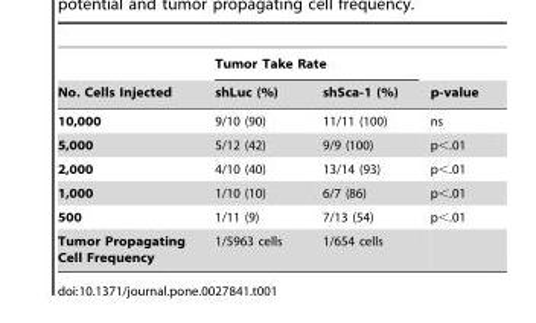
<table><thead><tr><td rowspan="2">No. Cells Injected</td><td colspan="2">Tumor Take Rate</td><td rowspan="2">p-value</td></tr><tr><td>shLuc (%)</td><td>shSca-1 (%)</td></tr></thead><tbody><tr><td>10,000</td><td>9/10 (90)</td><td>11/11 (100)</td><td>ns</td></tr><tr><td>5,000</td><td>5/12 (42)</td><td>9/9 (100)</td><td>p&lt;.01</td></tr><tr><td>2,000</td><td>4/10 (40)</td><td>13/14 (93)</td><td>p&lt;.01</td></tr><tr><td>1,000</td><td>1/10 (10)</td><td>6/7 (86)</td><td>p&lt;.01</td></tr><tr><td>500</td><td>1/11 (9)</td><td>7/13 (54)</td><td>p&lt;.01</td></tr><tr><td>Tumor Propagating Cell Frequency</td><td>1/5963 cells</td><td>1/654 cells</td><td></td></tr></tbody></table>